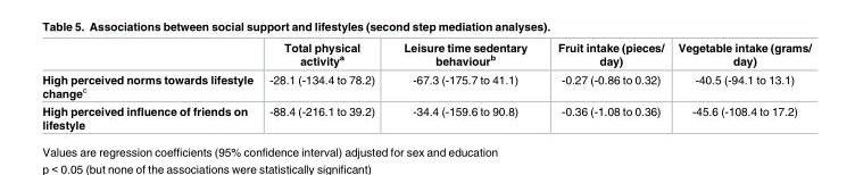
<table><thead><tr><td></td><td>Total physical activity<sup>a</sup></td><td>Leisure time sedentary behaviour<sup>b</sup></td><td>Fruit intake (pieces/ day)</td><td>Vegetable intake (grams/ day)</td></tr></thead><tbody><tr><td>High perceived norms towards lifestyle change<sup>c</sup></td><td>-28.1 (-134.4 to 78.2)</td><td>-67.3 (-175.7 to 41.1)</td><td>-0.27 (-0.86 to 0.32)</td><td>-40.5 (-94.1 to 13.1)</td></tr><tr><td>High perceived influence of friends on lifestyle</td><td>-88.4 (-216.1 to 39.2)</td><td>-34.4 (-159.6 to 90.8)</td><td>-0.36 (-1.08 to 0.36)</td><td>-45.6 (-108.4 to 17.2)</td></tr></tbody></table>